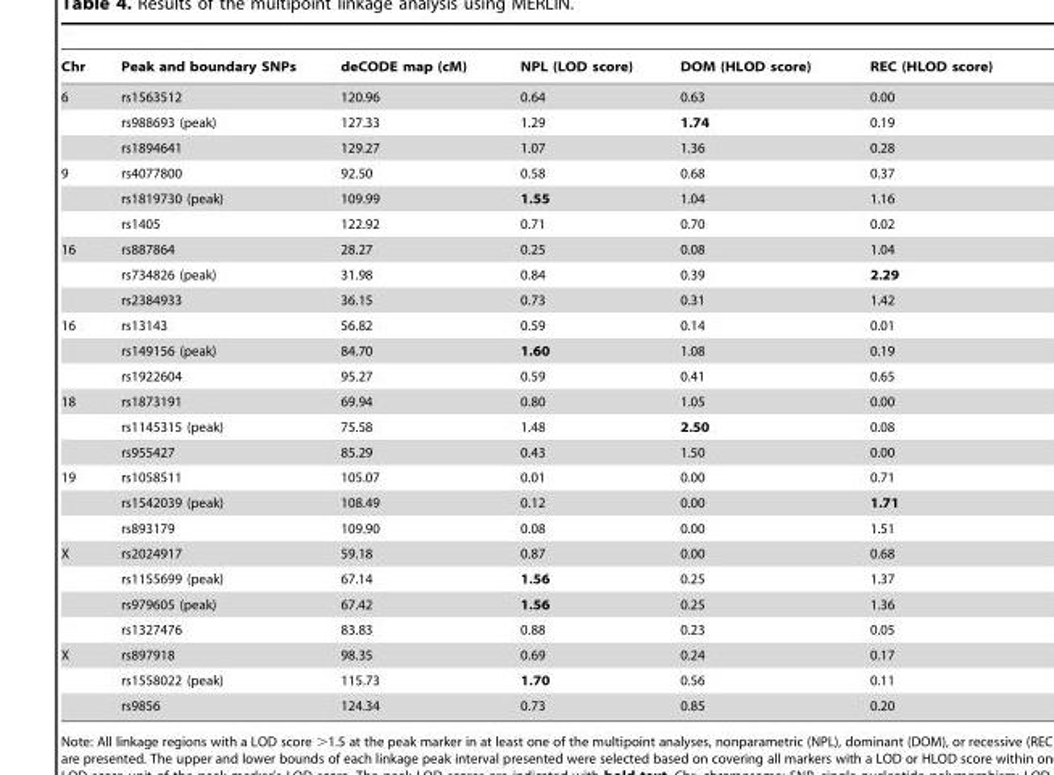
<table><thead><tr><td>Chr</td><td>Peak and boundary SNPs</td><td>deCODE map (cM)</td><td>NPL (LOD score)</td><td>DOM (HLOD score)</td><td>REC (HLOD score)</td></tr></thead><tbody><tr><td rowspan="3">6</td><td>rs1563512</td><td>120.96</td><td>0.64</td><td>0.63</td><td>0.00</td></tr><tr><td>rs988693 (peak)</td><td>127.33</td><td>1.29</td><td>1.74</td><td>0.19</td></tr><tr><td>rs1894641</td><td>129.27</td><td>1.07</td><td>1.36</td><td>0.28</td></tr><tr><td rowspan="3">9</td><td>rs4077800</td><td>92.50</td><td>0.58</td><td>0.68</td><td>0.37</td></tr><tr><td>rs1819730 (peak)</td><td>109.99</td><td>1.55</td><td>1.04</td><td>1.16</td></tr><tr><td>rs1405</td><td>122.92</td><td>0.71</td><td>0.70</td><td>0.02</td></tr><tr><td rowspan="3">16</td><td>rs887864</td><td>28.27</td><td>0.25</td><td>0.08</td><td>1.04</td></tr><tr><td>rs734826 (peak)</td><td>31.98</td><td>0.84</td><td>0.39</td><td>2.29</td></tr><tr><td>rs2384933</td><td>36.15</td><td>0.73</td><td>0.31</td><td>1.42</td></tr><tr><td rowspan="3">16</td><td>rs13143</td><td>56.82</td><td>0.59</td><td>0.14</td><td>0.01</td></tr><tr><td>rs149156 (peak)</td><td>84.70</td><td>1.60</td><td>1.08</td><td>0.19</td></tr><tr><td>rs1922604</td><td>95.27</td><td>0.59</td><td>0.41</td><td>0.65</td></tr><tr><td rowspan="3">18</td><td>rs1873191</td><td>69.94</td><td>0.80</td><td>1.05</td><td>0.00</td></tr><tr><td>rs1145315 (peak)</td><td>75.58</td><td>1.48</td><td>2.50</td><td>0.08</td></tr><tr><td>rs955427</td><td>85.29</td><td>0.43</td><td>1.50</td><td>0.00</td></tr><tr><td rowspan="3">19</td><td>rs1058511</td><td>105.07</td><td>0.01</td><td>0.00</td><td>0.71</td></tr><tr><td>rs1542039 (peak)</td><td>108.49</td><td>0.12</td><td>0.00</td><td>1.71</td></tr><tr><td>rs893179</td><td>109.90</td><td>0.08</td><td>0.00</td><td>1.51</td></tr><tr><td rowspan="4">X</td><td>rs2024917</td><td>59.18</td><td>0.87</td><td>0.00</td><td>0.68</td></tr><tr><td>rs1155699 (peak)</td><td>67.14</td><td>1.56</td><td>0.25</td><td>1.37</td></tr><tr><td>rs979605 (peak)</td><td>67.42</td><td>1.56</td><td>0.25</td><td>1.36</td></tr><tr><td>rs1327476</td><td>83.83</td><td>0.88</td><td>0.23</td><td>0.05</td></tr><tr><td rowspan="3">X</td><td>rs897918</td><td>98.35</td><td>0.69</td><td>0.24</td><td>0.17</td></tr><tr><td>rs1558022 (peak)</td><td>115.73</td><td>1.70</td><td>0.56</td><td>0.11</td></tr><tr><td>rs9856</td><td>124.34</td><td>0.73</td><td>0.85</td><td>0.20</td></tr></tbody></table>